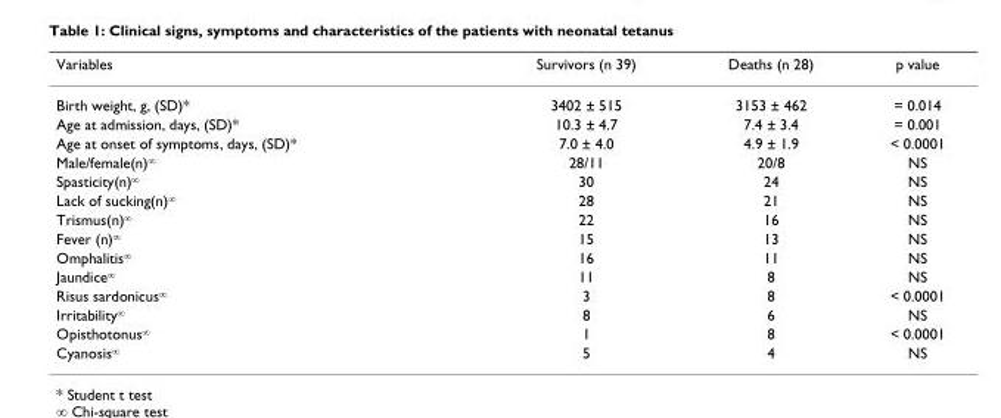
<table><thead><tr><td>Variables</td><td>Survivors (n 39)</td><td>Deaths (n 28)</td><td>p value</td></tr></thead><tbody><tr><td>Birth weight, g, (SD)*</td><td>3402 ± 515</td><td>3153 ± 462</td><td>= 0.014</td></tr><tr><td>Age at admission, days, (SD)*</td><td>10.3 ± 4.7</td><td>7.4 ± 3.4</td><td>= 0.001</td></tr><tr><td>Age at onset of symptoms, days, (SD)*</td><td>7.0 ± 4.0</td><td>4.9 ± 1.9</td><td>&lt; 0.0001</td></tr><tr><td>Male/female(n)<sup>∞</sup></td><td>28/11</td><td>20/8</td><td>NS</td></tr><tr><td>Spasticity(n)<sup>∞</sup></td><td>30</td><td>24</td><td>NS</td></tr><tr><td>Lack of sucking(n)<sup>∞</sup></td><td>28</td><td>21</td><td>NS</td></tr><tr><td>Trismus(n)<sup>∞</sup></td><td>22</td><td>16</td><td>NS</td></tr><tr><td>Fever (n)<sup>∞</sup></td><td>15</td><td>13</td><td>NS</td></tr><tr><td>Omphalitis<sup>∞</sup></td><td>16</td><td>11</td><td>NS</td></tr><tr><td>Jaundice<sup>∞</sup></td><td>11</td><td>8</td><td>NS</td></tr><tr><td>Risus sardonicus<sup>∞</sup></td><td>3</td><td>8</td><td>&lt; 0.0001</td></tr><tr><td>Irritability<sup>∞</sup></td><td>8</td><td>6</td><td>NS</td></tr><tr><td>Opisthotonus<sup>∞</sup></td><td>1</td><td>8</td><td>&lt; 0.0001</td></tr><tr><td>Cyanosis<sup>∞</sup></td><td>5</td><td>4</td><td>NS</td></tr></tbody></table>